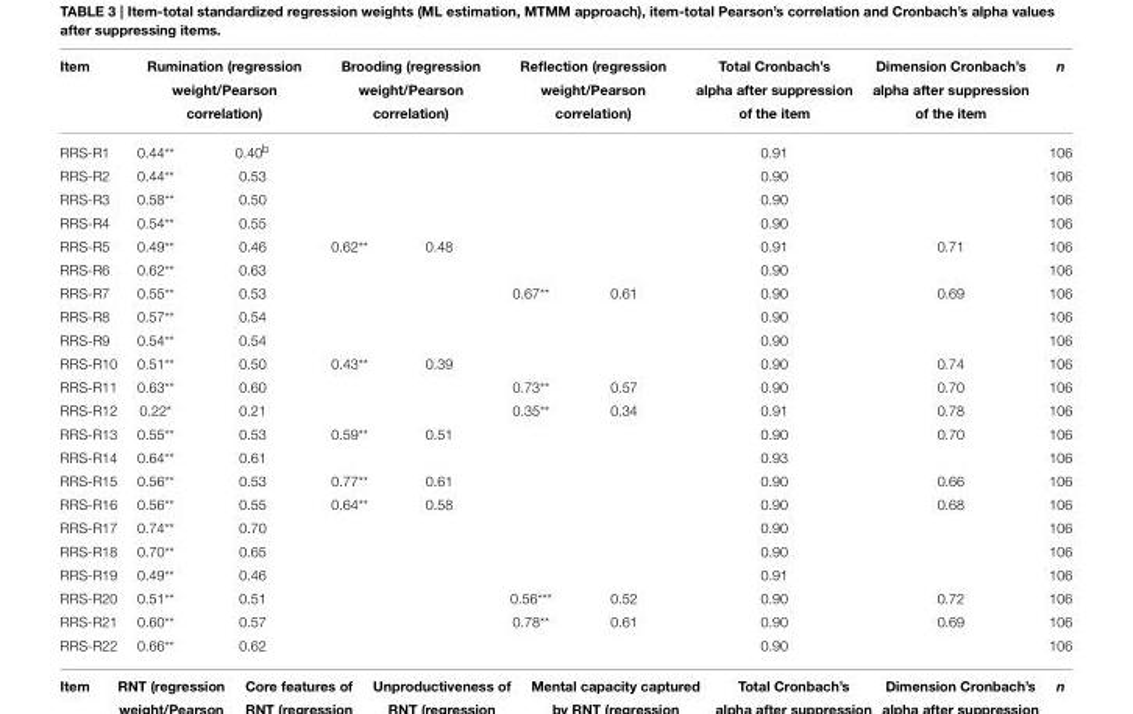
<table><thead><tr><td rowspan="2">Item RRS-R1</td><td colspan="2">Rumination (regression weight/Pearson correlation)</td><td colspan="2">Brooding (regression weight/Pearson correlation)</td><td colspan="2">Reflection (regression weight/Pearson correlation)</td><td rowspan="2">Total Cronbach’s alpha after suppression of the item 0.91</td><td rowspan="2">Dimension Cronbach’s alpha after suppression of the item</td><td rowspan="2">n 106</td></tr><tr><td>0.44**</td><td>0.40<sup>b</sup></td><td></td><td></td><td></td><td></td></tr></thead><tbody><tr><td>RRS-R2</td><td>0.44**</td><td>0.53</td><td></td><td></td><td></td><td></td><td>0.90</td><td></td><td>106</td></tr><tr><td>RRS-R3</td><td>0.58**</td><td>0.50</td><td></td><td></td><td></td><td></td><td>0.90</td><td></td><td>106</td></tr><tr><td>RRS-R4</td><td>0.54**</td><td>0.55</td><td></td><td></td><td></td><td></td><td>0.90</td><td></td><td>106</td></tr><tr><td>RRS-R5</td><td>0.49**</td><td>0.46</td><td>0.62**</td><td>0.48</td><td></td><td></td><td>0.91</td><td>0.71</td><td>106</td></tr><tr><td>RRS-R6</td><td>0.62**</td><td>0.63</td><td></td><td></td><td></td><td></td><td>0.90</td><td></td><td>106</td></tr><tr><td>RRS-R7</td><td>0.55**</td><td>0.53</td><td></td><td></td><td>0.67**</td><td>0.61</td><td>0.90</td><td>0.69</td><td>106</td></tr><tr><td>RRS-R8</td><td>0.57**</td><td>0.54</td><td></td><td></td><td></td><td></td><td>0.90</td><td></td><td>106</td></tr><tr><td>RRS-R9</td><td>0.54**</td><td>0.54</td><td></td><td></td><td></td><td></td><td>0.90</td><td></td><td>106</td></tr><tr><td>RRS-R10</td><td>0.51**</td><td>0.50</td><td>0.43**</td><td>0.39</td><td></td><td></td><td>0.90</td><td>0.74</td><td>106</td></tr><tr><td>RRS-R11</td><td>0.63**</td><td>0.60</td><td></td><td></td><td>0.73**</td><td>0.57</td><td>0.90</td><td>0.70</td><td>106</td></tr><tr><td>RRS-R12</td><td>0.22*</td><td>0.21</td><td></td><td></td><td>0.35**</td><td>0.34</td><td>0.91</td><td>0.78</td><td>106</td></tr><tr><td>RRS-R13</td><td>0.55**</td><td>0.53</td><td>0.59**</td><td>0.51</td><td></td><td></td><td>0.90</td><td>0.70</td><td>106</td></tr><tr><td>RRS-R14</td><td>0.64**</td><td>0.61</td><td></td><td></td><td></td><td></td><td>0.93</td><td></td><td>106</td></tr><tr><td>RRS-R15</td><td>0.56**</td><td>0.53</td><td>0.77**</td><td>0.61</td><td></td><td></td><td>0.90</td><td>0.66</td><td>106</td></tr><tr><td>RRS-R16</td><td>0.56**</td><td>0.55</td><td>0.64**</td><td>0.58</td><td></td><td></td><td>0.90</td><td>0.68</td><td>106</td></tr><tr><td>RRS-R17</td><td>0.74**</td><td>0.70</td><td></td><td></td><td></td><td></td><td>0.90</td><td></td><td>106</td></tr><tr><td>RRS-R18</td><td>0.70**</td><td>0.65</td><td></td><td></td><td></td><td></td><td>0.90</td><td></td><td>106</td></tr><tr><td>RRS-R19</td><td>0.49**</td><td>0.46</td><td></td><td></td><td></td><td></td><td>0.91</td><td></td><td>106</td></tr><tr><td>RRS-R20</td><td>0.51**</td><td>0.51</td><td></td><td></td><td>0.56***</td><td>0.52</td><td>0.90</td><td>0.72</td><td>106</td></tr><tr><td>RRS-R21</td><td>0.60**</td><td>0.57</td><td></td><td></td><td>0.78**</td><td>0.61</td><td>0.90</td><td>0.69</td><td>106</td></tr><tr><td>RRS-R22</td><td>0.66**</td><td>0.62</td><td></td><td></td><td></td><td></td><td>0.90</td><td></td><td>106</td></tr></tbody></table>